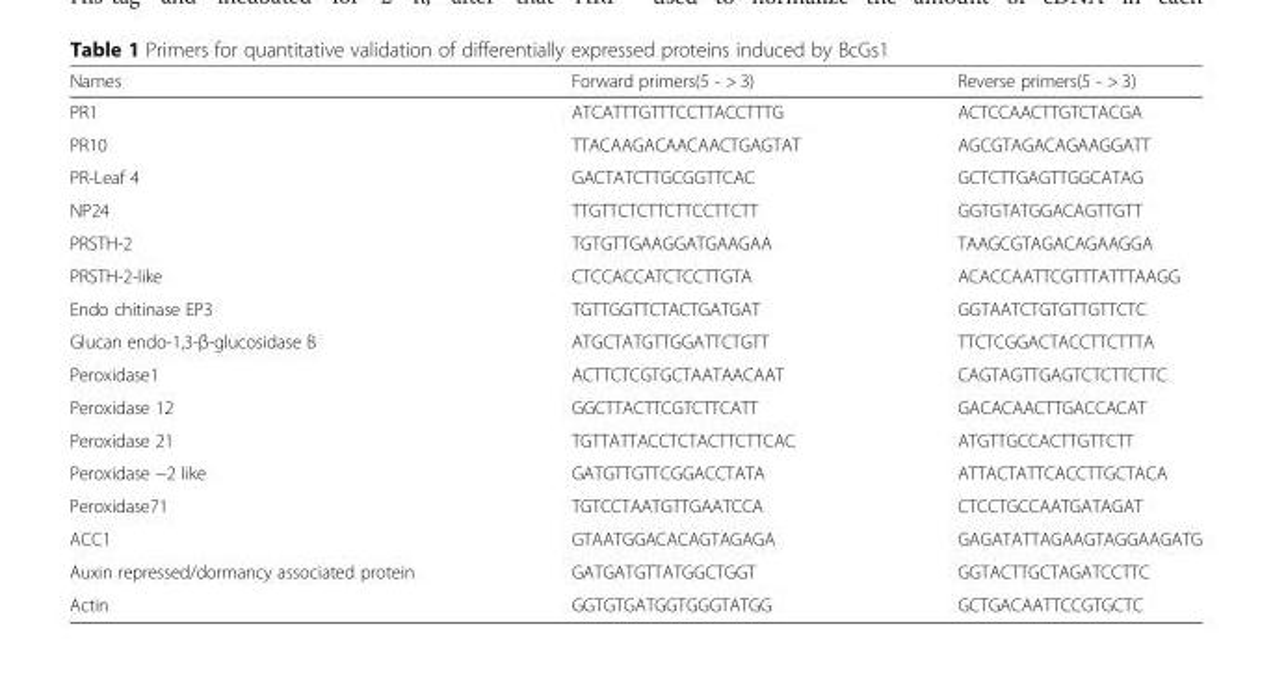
<table><thead><tr><td>Names</td><td>Forward primers(5 - &gt; 3)</td><td>Reverse primers(5 - &gt; 3)</td></tr></thead><tbody><tr><td>PR1</td><td>ATCATTTGTTTCCTTACCTTTG</td><td>ACTCCAACTTGTCTACGA</td></tr><tr><td>PR10</td><td>TTACAAGACAACAACTGAGTAT</td><td>AGCGTAGACAGAAGGATT</td></tr><tr><td>PR-Leaf 4</td><td>GACTATCTTGCGGTTCAC</td><td>GCTCTTGAGTTGGCATAG</td></tr><tr><td>NP24</td><td>TTGTTCTCTTCTTCCTTCTT</td><td>GGTGTATGGACAGTTGTT</td></tr><tr><td>PRSTH-2</td><td>TGTGTTGAAGGATGAAGAA</td><td>TAAGCGTAGACAGAAGGA</td></tr><tr><td>PRSTH-2-like</td><td>CTCCACCATCTCCTTGTA</td><td>ACACCAATTCGTTTATTTAAGG</td></tr><tr><td>Endo chitinase EP3</td><td>TGTTGGTTCTACTGATGAT</td><td>GGTAATCTGTGTTGTTCTC</td></tr><tr><td>Glucan endo-1,3-β-glucosidase B</td><td>ATGCTATGTTGGATTCTGTT</td><td>TTCTCGGACTACCTTCTTTA</td></tr><tr><td>Peroxidase1</td><td>ACTTCTCGTGCTAATAACAAT</td><td>CAGTAGTTGAGTCTCTTCTTC</td></tr><tr><td>Peroxidase 12</td><td>GGCTTACTTCGTCTTCATT</td><td>GACACAACTTGACCACAT</td></tr><tr><td>Peroxidase 21</td><td>TGTTATTACCTCTACTTCTTCAC</td><td>ATGTTGCCACTTGTTCTT</td></tr><tr><td>Peroxidase −2 like</td><td>GATGTTGTTCGGACCTATA</td><td>ATTACTATTCACCTTGCTACA</td></tr><tr><td>Peroxidase71</td><td>TGTCCTAATGTTGAATCCA</td><td>CTCCTGCCAATGATAGAT</td></tr><tr><td>ACC1</td><td>GTAATGGACACAGTAGAGA</td><td>GAGATATTAGAAGTAGGAAGATG</td></tr><tr><td>Auxin repressed/dormancy associated protein</td><td>GATGATGTTATGGCTGGT</td><td>GGTACTTGCTAGATCCTTC</td></tr><tr><td>Actin</td><td>GGTGTGATGGTGGGTATGG</td><td>GCTGACAATTCCGTGCTC</td></tr></tbody></table>